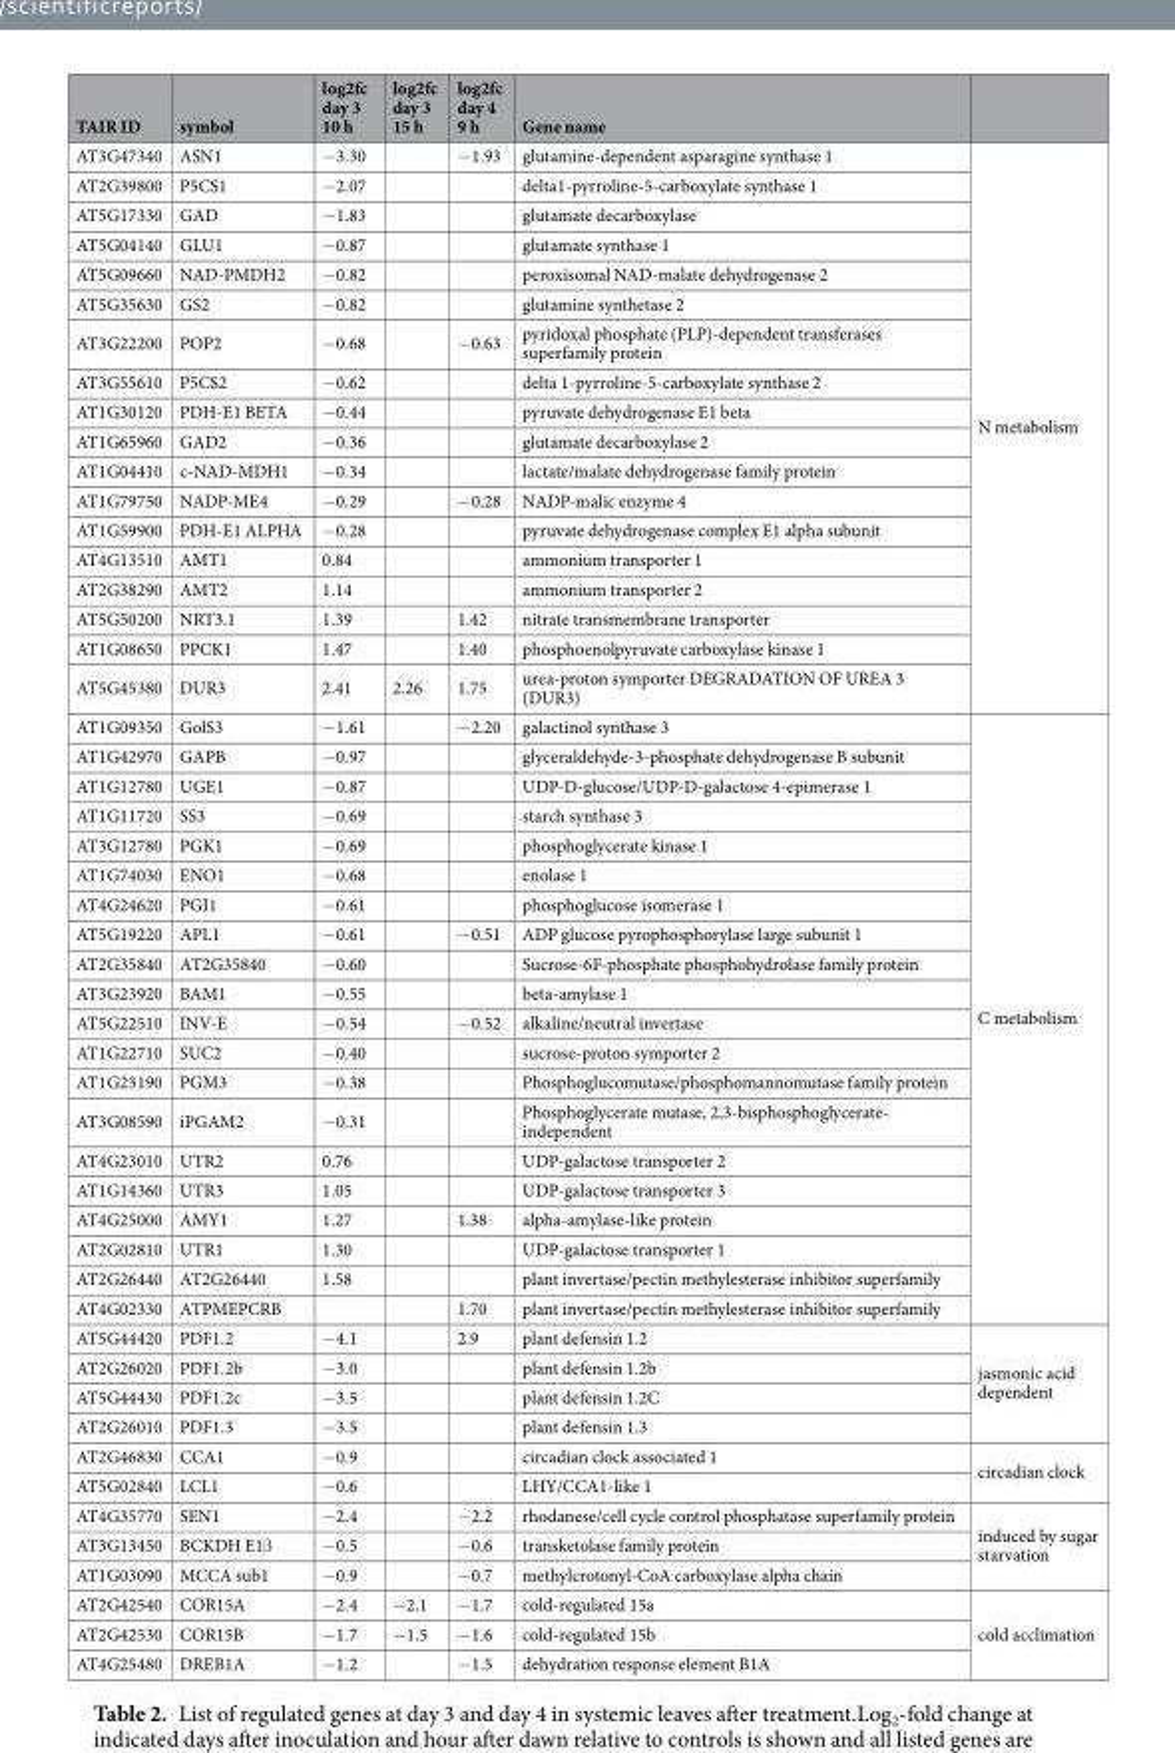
<table><thead><tr><td>TAIR ID</td><td>symbol</td><td>log2fc day 3 10 h</td><td>log2fc day 3 15 h</td><td>log2fc day 4 9 h</td><td>Gene name</td><td></td></tr></thead><tbody><tr><td>AT3G47340</td><td>ASN1</td><td>−3.30</td><td></td><td>−1.93</td><td>glutamine-dependent asparagine synthase 1</td><td rowspan="18">N metabolism</td></tr><tr><td>AT2G39800</td><td>P5CS1</td><td>−2.07</td><td></td><td></td><td>delta1-pyrroline-5-carboxylate synthase 1</td></tr><tr><td>AT5G17330</td><td>GAD</td><td>−1.83</td><td></td><td></td><td>glutamate decarboxylase</td></tr><tr><td>AT5G04140</td><td>GLU1</td><td>−0.87</td><td></td><td></td><td>glutamate synthase 1</td></tr><tr><td>AT5G09660</td><td>NAD-PMDH2</td><td>−0.82</td><td></td><td></td><td>peroxisomal NAD-malate dehydrogenase 2</td></tr><tr><td>AT5G35630</td><td>GS2</td><td>−0.82</td><td></td><td></td><td>glutamine synthetase 2</td></tr><tr><td>AT3G22200</td><td>POP2</td><td>−0.68</td><td></td><td>−0.63</td><td>pyridoxal phosphate (PLP)-dependent transferases superfamily protein</td></tr><tr><td>AT3G55610</td><td>P5CS2</td><td>−0.62</td><td></td><td></td><td>delta 1-pyrroline-5-carboxylate synthase 2</td></tr><tr><td>AT1G30120</td><td>PDH-E1 BETA</td><td>−0.44</td><td></td><td></td><td>pyruvate dehydrogenase E1 beta</td></tr><tr><td>AT1G65960</td><td>GAD2</td><td>−0.36</td><td></td><td></td><td>glutamate decarboxylase 2</td></tr><tr><td>AT1G04410</td><td>c-NAD-MDH1</td><td>−0.34</td><td></td><td></td><td>lactate/malate dehydrogenase family protein</td></tr><tr><td>AT1G79750</td><td>NADP-ME4</td><td>−0.29</td><td></td><td>−0.28</td><td>NADP-malic enzyme 4</td></tr><tr><td>AT1G59900</td><td>PDH-E1 ALPHA</td><td>−0.28</td><td></td><td></td><td>pyruvate dehydrogenase complex E1 alpha subunit</td></tr><tr><td>AT4G13510</td><td>AMT1</td><td>0.84</td><td></td><td></td><td>ammonium transporter 1</td></tr><tr><td>AT2G38290</td><td>AMT2</td><td>1.14</td><td></td><td></td><td>ammonium transporter 2</td></tr><tr><td>AT5G50200</td><td>NRT3.1</td><td>1.39</td><td></td><td>1.42</td><td>nitrate transmembrane transporter</td></tr><tr><td>AT1G08650</td><td>PPCK1</td><td>1.47</td><td></td><td>1.40</td><td>phosphoenolpyruvate carboxylase kinase 1</td></tr><tr><td>AT5G45380</td><td>DUR3</td><td>2.41</td><td>2.26</td><td>1.75</td><td>urea-proton symporter DEGRADATION OF UREA 3 (DUR3)</td></tr><tr><td>AT1G09350</td><td>GolS3</td><td>−1.61</td><td></td><td>−2.20</td><td>galactinol synthase 3</td><td rowspan="20">C metabolism</td></tr><tr><td>AT1G42970</td><td>GAPB</td><td>−0.97</td><td></td><td></td><td>glyceraldehyde-3-phosphate dehydrogenase B subunit</td></tr><tr><td>AT1G12780</td><td>UGE1</td><td>−0.87</td><td></td><td></td><td>UDP-D-glucose/UDP-D-galactose 4-epimerase 1</td></tr><tr><td>AT1G11720</td><td>SS3</td><td>−0.69</td><td></td><td></td><td>starch synthase 3</td></tr><tr><td>AT3G12780</td><td>PGK1</td><td>−0.69</td><td></td><td></td><td>phosphoglycerate kinase 1</td></tr><tr><td>AT1G74030</td><td>ENO1</td><td>−0.68</td><td></td><td></td><td>enolase 1</td></tr><tr><td>AT4G24620</td><td>PGI1</td><td>−0.61</td><td></td><td></td><td>phosphoglucose isomerase 1</td></tr><tr><td>AT5G19220</td><td>APL1</td><td>−0.61</td><td></td><td>−0.51</td><td>ADP glucose pyrophosphorylase large subunit 1</td></tr><tr><td>AT2G35840</td><td>AT2G35840</td><td>−0.60</td><td></td><td></td><td>Sucrose-6F-phosphate phosphohydrolase family protein</td></tr><tr><td>AT3G23920</td><td>BAM1</td><td>−0.55</td><td></td><td></td><td>beta-amylase 1</td></tr><tr><td>AT5G22510</td><td>INV-E</td><td>−0.54</td><td></td><td>−0.52</td><td>alkaline/neutral invertase</td></tr><tr><td>AT1G22710</td><td>SUC2</td><td>−0.40</td><td></td><td></td><td>sucrose-proton symporter 2</td></tr><tr><td>AT1G23190</td><td>PGM3</td><td>−0.38</td><td></td><td></td><td>Phosphoglucomutase/phosphomannomutase family protein</td></tr><tr><td>AT3G08590</td><td>iPGAM2</td><td>−0.31</td><td></td><td></td><td>Phosphoglycerate mutase, 2,3-bisphosphoglycerate- independent</td></tr><tr><td>AT4G23010</td><td>UTR2</td><td>0.76</td><td></td><td></td><td>UDP-galactose transporter 2</td></tr><tr><td>AT1G14360</td><td>UTR3</td><td>1.05</td><td></td><td></td><td>UDP-galactose transporter 3</td></tr><tr><td>AT4G25000</td><td>AMY1</td><td>1.27</td><td></td><td>1.38</td><td>alpha-amylase-like protein</td></tr><tr><td>AT2G02810</td><td>UTR1</td><td>1.30</td><td></td><td></td><td>UDP-galactose transporter 1</td></tr><tr><td>AT2G26440</td><td>AT2G26440</td><td>1.58</td><td></td><td></td><td>plant invertase/pectin methylesterase inhibitor superfamily</td></tr><tr><td>AT4G02330</td><td>ATPMEPCRB</td><td></td><td></td><td>1.70</td><td>plant invertase/pectin methylesterase inhibitor superfamily</td></tr><tr><td>AT5G44420</td><td>PDF1.2</td><td>−4.1</td><td></td><td>2.9</td><td>plant defensin 1.2</td><td rowspan="4">jasmonic acid dependent</td></tr><tr><td>AT2G26020</td><td>PDF1.2b</td><td>−3.0</td><td></td><td></td><td>plant defensin 1.2b</td></tr><tr><td>AT5G44430</td><td>PDF1.2c</td><td>−3.5</td><td></td><td></td><td>plant defensin 1.2C</td></tr><tr><td>AT2G26010</td><td>PDF1.3</td><td>−3.5</td><td></td><td></td><td>plant defensin 1.3</td></tr><tr><td>AT2G46830</td><td>CCA1</td><td>−0.9</td><td></td><td></td><td>circadian clock associated 1</td><td rowspan="2">circadian clock</td></tr><tr><td>AT5G02840</td><td>LCL1</td><td>−0.6</td><td></td><td></td><td>LHY/CCA1-like 1</td></tr><tr><td>AT4G35770</td><td>SEN1</td><td>−2.4</td><td></td><td>−2.2</td><td>rhodanese/cell cycle control phosphatase superfamily protein</td><td rowspan="3">induced by sugar starvation</td></tr><tr><td>AT3G13450</td><td>BCKDH E1β</td><td>−0.5</td><td></td><td>−0.6</td><td>transketolase family protein</td></tr><tr><td>AT1G03090</td><td>MCCA sub1</td><td>−0.9</td><td></td><td>−0.7</td><td>methylcrotonyl-CoA carboxylase alpha chain</td></tr><tr><td>AT2G42540</td><td>COR15A</td><td>−2.4</td><td>−2.1</td><td>−1.7</td><td>cold-regulated 15a</td><td rowspan="3">cold acclimation</td></tr><tr><td>AT2G42530</td><td>COR15B</td><td>−1.7</td><td>−1.5</td><td>−1.6</td><td>cold-regulated 15b</td></tr><tr><td>AT4G25480</td><td>DREB1A</td><td>−1.2</td><td></td><td>−1.5</td><td>dehydration response element B1A</td></tr></tbody></table>